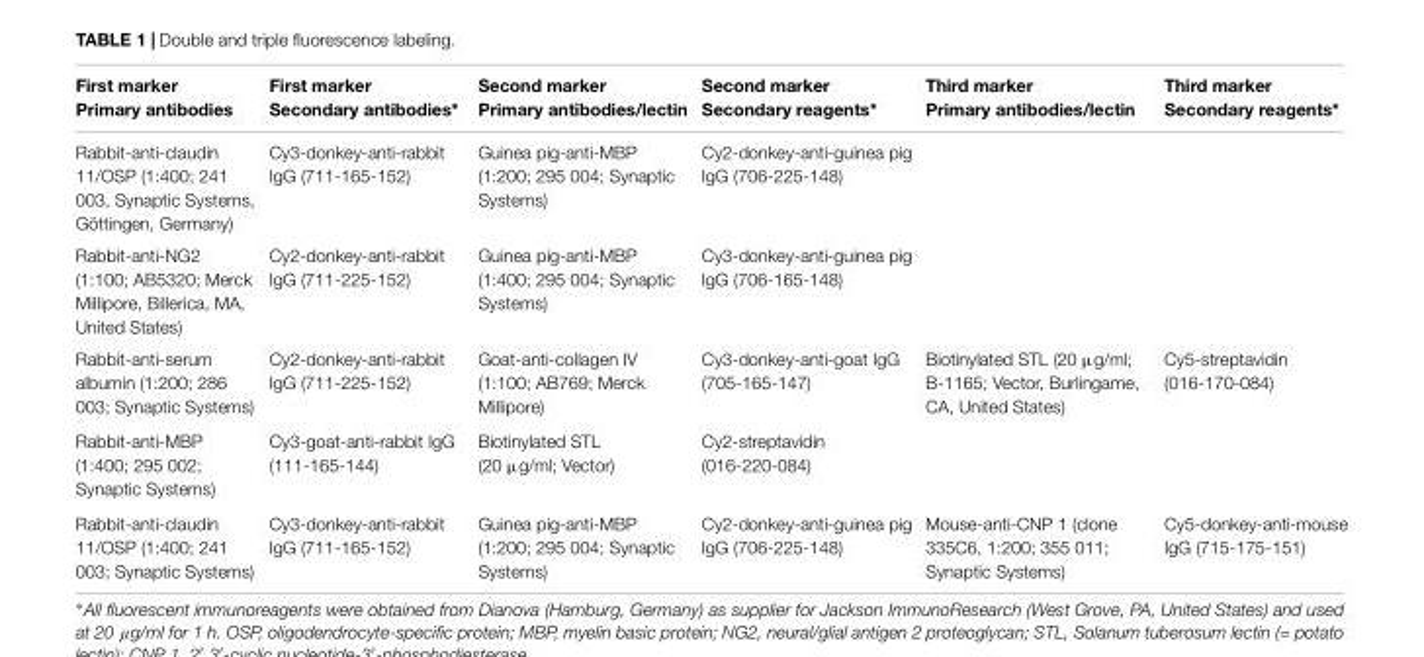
<table><thead><tr><td>First marker Primary antibodies</td><td>First marker Secondary antibodies∗</td><td>Second marker Primary antibodies/lectin</td><td>Second marker Secondary reagents∗</td><td>Third marker Primary antibodies/lectin</td><td>Third marker Secondary reagents∗</td></tr></thead><tbody><tr><td>Rabbit-anti-claudin 11/OSP (1:400; 241 003, Synaptic Systems, Göttingen, Germany)</td><td>Cy3-donkey-anti-rabbit IgG (711-165-152)</td><td>Guinea pig-anti-MBP (1:200; 295 004; Synaptic Systems)</td><td>Cy2-donkey-anti-guinea pig IgG (706-225-148)</td><td></td><td></td></tr><tr><td>Rabbit-anti-NG2 (1:100; AB5320; Merck Millipore, Billerica, MA, United States)</td><td>Cy2-donkey-anti-rabbit IgG (711-225-152)</td><td>Guinea pig-anti-MBP (1:400; 295 004; Synaptic Systems)</td><td>Cy3-donkey-anti-guinea pig IgG (706-165-148)</td><td></td><td></td></tr><tr><td>Rabbit-anti-serum albumin (1:200; 286 003; Synaptic Systems)</td><td>Cy2-donkey-anti-rabbit IgG (711-225-152)</td><td>Goat-anti-collagen IV (1:100; AB769; Merck Millipore)</td><td>Cy3-donkey-anti-goat IgG (705-165-147)</td><td>Biotinylated STL (20 µg/ml; B-1165; Vector, Burlingame, CA, United States)</td><td>Cy5-streptavidin (016-170-084)</td></tr><tr><td>Rabbit-anti-MBP (1:400; 295 002; Synaptic Systems)</td><td>Cy3-goat-anti-rabbit IgG (111-165-144)</td><td>Biotinylated STL (20 µg/ml; Vector)</td><td>Cy2-streptavidin (016-220-084)</td><td></td><td></td></tr><tr><td>Rabbit-anti-claudin 11/OSP (1:400; 241 003; Synaptic Systems)</td><td>Cy3-donkey-anti-rabbit IgG (711-165-152)</td><td>Guinea pig-anti-MBP (1:200; 295 004; Synaptic Systems)</td><td>Cy2-donkey-anti-guinea pig IgG (706-225-148)</td><td>Mouse-anti-CNP 1 (clone 335C6, 1:200; 355 011; Synaptic Systems)</td><td>Cy5-donkey-anti-mouse IgG (715-175-151)</td></tr></tbody></table>